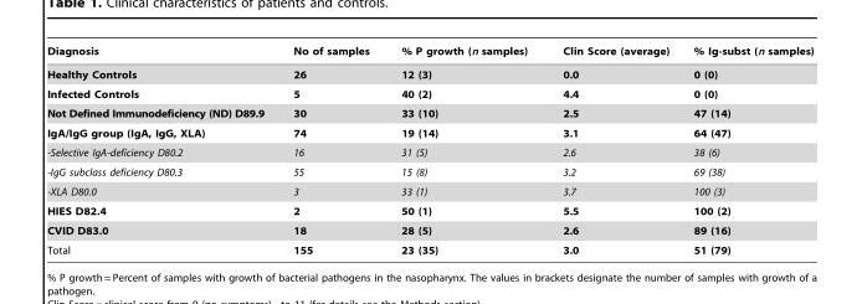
<table><thead><tr><td>Diagnosis</td><td>No of samples</td><td>% P growth (n samples)</td><td>Clin Score (average)</td><td>% Ig-subst (n samples)</td></tr></thead><tbody><tr><td>Healthy Controls</td><td>26</td><td>12 (3)</td><td>0.0</td><td>0 (0)</td></tr><tr><td>Infected Controls</td><td>5</td><td>40 (2)</td><td>4.4</td><td>0 (0)</td></tr><tr><td>Not Defined Immunodeficiency (ND) D89.9</td><td>30</td><td>33 (10)</td><td>2.5</td><td>47 (14)</td></tr><tr><td>IgA/IgG group (IgA, IgG, XLA)</td><td>74</td><td>19 (14)</td><td>3.1</td><td>64 (47)</td></tr><tr><td>-Selective IgA-deficiency D80.2</td><td>16</td><td>31 (5)</td><td>2.6</td><td>38 (6)</td></tr><tr><td>-IgG subclass deficiency D80.3</td><td>55</td><td>15 (8)</td><td>3.2</td><td>69 (38)</td></tr><tr><td>-XLA D80.0</td><td>3</td><td>33 (1)</td><td>3.7</td><td>100 (3)</td></tr><tr><td>HIES D82.4</td><td>2</td><td>50 (1)</td><td>5.5</td><td>100 (2)</td></tr><tr><td>CVID D83.0</td><td>18</td><td>28 (5)</td><td>2.6</td><td>89 (16)</td></tr><tr><td>Total</td><td>155</td><td>23 (35)</td><td>3.0</td><td>51 (79)</td></tr></tbody></table>